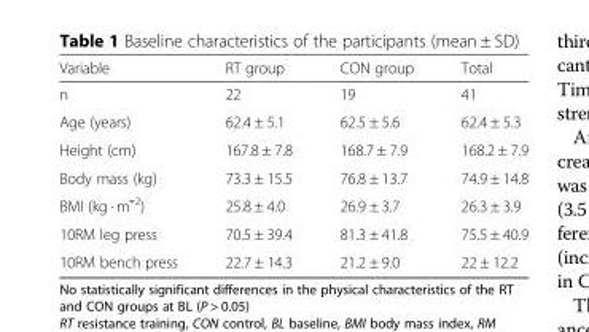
<table><thead><tr><td>Variable</td><td>RT group</td><td>CON group</td><td>Total</td></tr></thead><tbody><tr><td>n</td><td>22</td><td>19</td><td>41</td></tr><tr><td>Age (years)</td><td>62.4 ± 5.1</td><td>62.5 ± 5.6</td><td>62.4 ± 5.3</td></tr><tr><td>Height (cm)</td><td>167.8 ± 7.8</td><td>168.7 ± 7.9</td><td>168.2 ± 7.9</td></tr><tr><td>Body mass (kg)</td><td>73.3 ± 15.5</td><td>76.8 ± 13.7</td><td>74.9 ± 14.8</td></tr><tr><td>BMI (kg · mˉ<sup>2</sup>)</td><td>25.8 ± 4.0</td><td>26.9 ± 3.7</td><td>26.3 ± 3.9</td></tr><tr><td>10RM leg press</td><td>70.5 ± 39.4</td><td>81.3 ± 41.8</td><td>75.5 ± 40.9</td></tr><tr><td>10RM bench press</td><td>22.7 ± 14.3</td><td>21.2 ± 9.0</td><td>22 ± 12.2</td></tr></tbody></table>